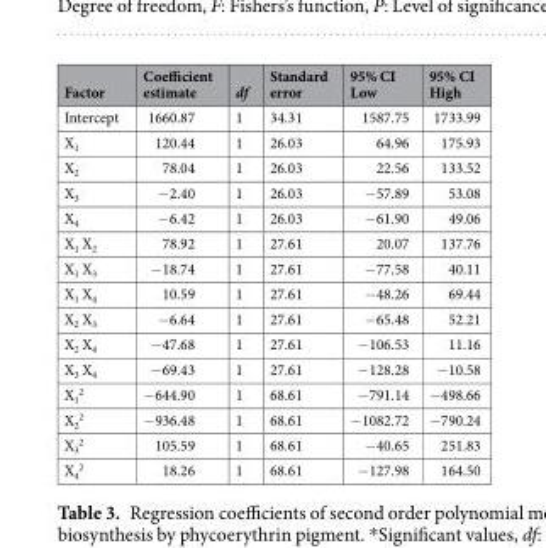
<table><thead><tr><td>Factor</td><td>Coefficient estimate</td><td>df</td><td>Standard error</td><td>95% CI Low</td><td>95% CI High</td></tr></thead><tbody><tr><td>Intercept</td><td>1660.87</td><td>1</td><td>34.31</td><td>1587.75</td><td>1733.99</td></tr><tr><td>X<sub>1</sub></td><td>120.44</td><td>1</td><td>26.03</td><td>64.96</td><td>175.93</td></tr><tr><td>X<sub>2</sub></td><td>78.04</td><td>1</td><td>26.03</td><td>22.56</td><td>133.52</td></tr><tr><td>X<sub>3</sub></td><td>−2.40</td><td>1</td><td>26.03</td><td>−57.89</td><td>53.08</td></tr><tr><td>X<sub>4</sub></td><td>−6.42</td><td>1</td><td>26.03</td><td>−61.90</td><td>49.06</td></tr><tr><td>X<sub>1</sub> X<sub>2</sub></td><td>78.92</td><td>1</td><td>27.61</td><td>20.07</td><td>137.76</td></tr><tr><td>X<sub>1</sub> X<sub>3</sub></td><td>−18.74</td><td>1</td><td>27.61</td><td>−77.58</td><td>40.11</td></tr><tr><td>X<sub>1</sub> X<sub>4</sub></td><td>10.59</td><td>1</td><td>27.61</td><td>−48.26</td><td>69.44</td></tr><tr><td>X<sub>2</sub> X<sub>3</sub></td><td>−6.64</td><td>1</td><td>27.61</td><td>−65.48</td><td>52.21</td></tr><tr><td>X<sub>2</sub> X<sub>4</sub></td><td>−47.68</td><td>1</td><td>27.61</td><td>−106.53</td><td>11.16</td></tr><tr><td>X<sub>3</sub> X<sub>4</sub></td><td>−69.43</td><td>1</td><td>27.61</td><td>−128.28</td><td>−10.58</td></tr><tr><td>X<sub>1</sub> <sup>2</sup></td><td>−644.90</td><td>1</td><td>68.61</td><td>−791.14</td><td>−498.66</td></tr><tr><td>X<sub>2</sub> <sup>2</sup></td><td>−936.48</td><td>1</td><td>68.61</td><td>−1082.72</td><td>−790.24</td></tr><tr><td>X<sub>3</sub> <sup>2</sup></td><td>105.59</td><td>1</td><td>68.61</td><td>−40.65</td><td>251.83</td></tr><tr><td>X<sub>4</sub> <sup>2</sup></td><td>18.26</td><td>1</td><td>68.61</td><td>−127.98</td><td>164.50</td></tr></tbody></table>